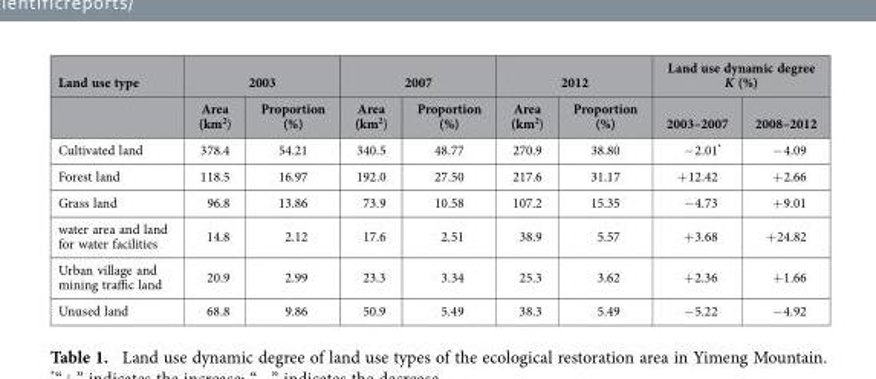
<table><thead><tr><td rowspan="2">Land use type</td><td colspan="2">2003</td><td colspan="2">2007</td><td colspan="2">2012</td><td colspan="2">Land use dynamic degree K (%)</td></tr><tr><td>Area (km<sup>2</sup>)</td><td>Proportion (%)</td><td>Area (km<sup>2</sup>)</td><td>Proportion (%)</td><td>Area (km<sup>2</sup>)</td><td>Proportion (%)</td><td>2003–2007</td><td>2008–2012</td></tr></thead><tbody><tr><td>Cultivated land</td><td>378.4</td><td>54.21</td><td>340.5</td><td>48.77</td><td>270.9</td><td>38.80</td><td>− 2.01*</td><td>− 4.09</td></tr><tr><td>Forest land</td><td>118.5</td><td>16.97</td><td>192.0</td><td>27.50</td><td>217.6</td><td>31.17</td><td>+ 12.42</td><td>+ 2.66</td></tr><tr><td>Grass land</td><td>96.8</td><td>13.86</td><td>73.9</td><td>10.58</td><td>107.2</td><td>15.35</td><td>− 4.73</td><td>+ 9.01</td></tr><tr><td>water area and land for water facilities</td><td>14.8</td><td>2.12</td><td>17.6</td><td>2.51</td><td>38.9</td><td>5.57</td><td>+ 3.68</td><td>+ 24.82</td></tr><tr><td>Urban village and mining traffic land</td><td>20.9</td><td>2.99</td><td>23.3</td><td>3.34</td><td>25.3</td><td>3.62</td><td>+ 2.36</td><td>+ 1.66</td></tr><tr><td>Unused land</td><td>68.8</td><td>9.86</td><td>50.9</td><td>5.49</td><td>38.3</td><td>5.49</td><td>− 5.22</td><td>− 4.92</td></tr></tbody></table>